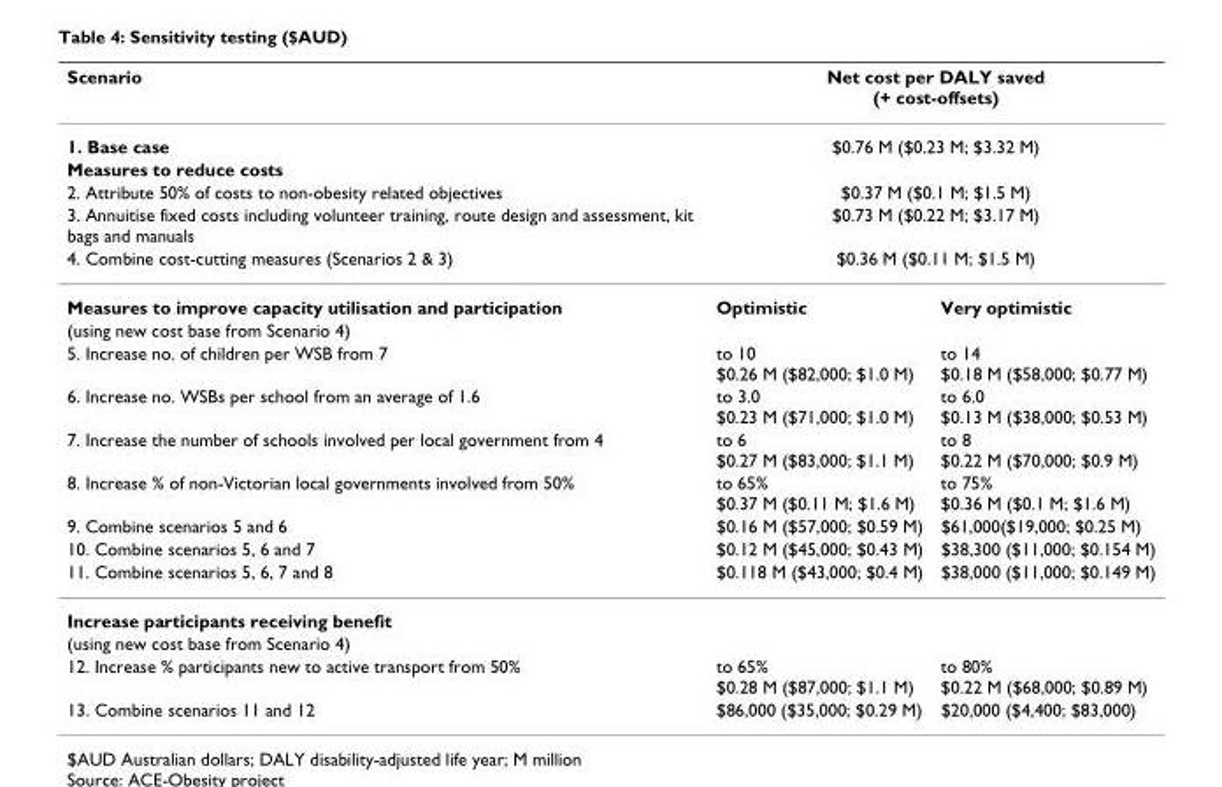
<table><thead><tr><td rowspan="3">Scenario 1. Base case Measures to reduce costs</td><td rowspan="2" colspan="2">Net cost per DALY saved (+ cost-offsets) $0.76 M ($0.23 M; $3.32 M)</td></tr><tr></tr><tr><td></td><td></td></tr></thead><tbody><tr><td>2. Attribute 50% of costs to non-obesity related objectives</td><td colspan="2">$0.37 M ($0.1 M; $1.5 M)</td></tr><tr><td>3. Annuitise fixed costs including volunteer training, route design and assessment, kit bags and manuals</td><td colspan="2">$0.73 M ($0.22 M; $3.17 M)</td></tr><tr><td>4. Combine cost-cutting measures (Scenarios 2 &amp; 3)</td><td colspan="2">$0.36 M ($0.11 M; $1.5 M)</td></tr><tr><td>Measures to improve capacity utilisation and participation</td><td>Optimistic</td><td>Very optimistic</td></tr><tr><td colspan="3">(using new cost base from Scenario 4)</td></tr><tr><td>5. Increase no. of children per WSB from 7</td><td>to 10 $0.26 M ($82,000; $1.0 M)</td><td>to 14 $0.18 M ($58,000; $0.77 M)</td></tr><tr><td>6. Increase no. WSBs per school from an average of 1.6</td><td>to 3.0 $0.23 M ($71,000; $1.0 M)</td><td>to 6.0 $0.13 M ($38,000; $0.53 M)</td></tr><tr><td>7. Increase the number of schools involved per local government from 4</td><td>to 6 $0.27 M ($83,000; $1.1 M)</td><td>to 8 $0.22 M ($70,000; $0.9 M)</td></tr><tr><td>8. Increase % of non-Victorian local governments involved from 50%</td><td>to 65% $0.37 M ($0.11 M; $1.6 M)</td><td>to 75% $0.36 M ($0.1 M; $1.6 M)</td></tr><tr><td>9. Combine scenarios 5 and 6</td><td>$0.16 M ($57,000; $0.59 M)</td><td>$61,000($19,000; $0.25 M)</td></tr><tr><td>10. Combine scenarios 5, 6 and 7</td><td>$0.12 M ($45,000; $0.43 M)</td><td>$38,300 ($11,000; $0.154 M)</td></tr><tr><td>11. Combine scenarios 5, 6, 7 and 8</td><td>$0.118 M ($43,000; $0.4 M)</td><td>$38,000 ($11,000; $0.149 M)</td></tr><tr><td colspan="3">Increase participants receiving benefit</td></tr><tr><td colspan="3">(using new cost base from Scenario 4)</td></tr><tr><td>12. Increase % participants new to active transport from 50%</td><td>to 65% $0.28 M ($87,000; $1.1 M)</td><td>to 80% $0.22 M ($68,000; $0.89 M)</td></tr><tr><td>13. Combine scenarios 11 and 12</td><td>$86,000 ($35,000; $0.29 M)</td><td>$20,000 ($4,400; $83,000)</td></tr></tbody></table>